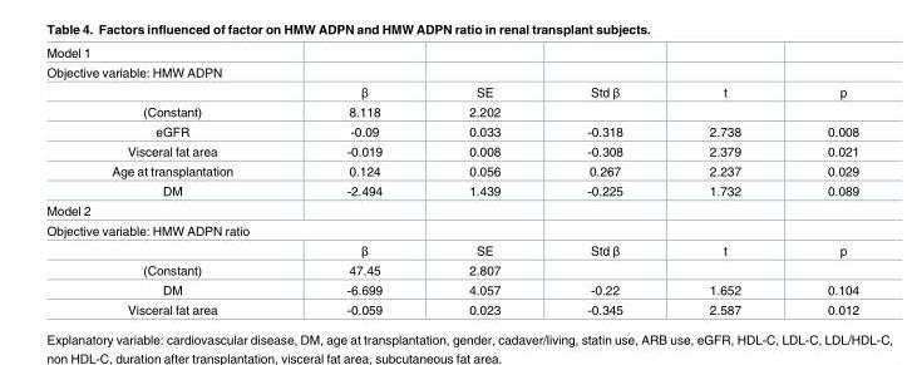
<table><tbody><tr><td colspan="6">Model 1</td></tr><tr><td colspan="6">Objective variable: HMW ADPN</td></tr><tr><td></td><td>β</td><td>SE</td><td>Std β</td><td>t</td><td>p</td></tr><tr><td>(Constant)</td><td>8.118</td><td>2.202</td><td></td><td></td><td></td></tr><tr><td>eGFR</td><td>-0.09</td><td>0.033</td><td>-0.318</td><td>2.738</td><td>0.008</td></tr><tr><td>Visceral fat area</td><td>-0.019</td><td>0.008</td><td>-0.308</td><td>2.379</td><td>0.021</td></tr><tr><td>Age at transplantation</td><td>0.124</td><td>0.056</td><td>0.267</td><td>2.237</td><td>0.029</td></tr><tr><td>DM</td><td>-2.494</td><td>1.439</td><td>-0.225</td><td>1.732</td><td>0.089</td></tr><tr><td colspan="6">Model 2</td></tr><tr><td colspan="6">Objective variable: HMW ADPN ratio</td></tr><tr><td></td><td>β</td><td>SE</td><td>Std β</td><td>t</td><td>p</td></tr><tr><td>(Constant)</td><td>47.45</td><td>2.807</td><td></td><td></td><td></td></tr><tr><td>DM</td><td>-6.699</td><td>4.057</td><td>-0.22</td><td>1.652</td><td>0.104</td></tr><tr><td>Visceral fat area</td><td>-0.059</td><td>0.023</td><td>-0.345</td><td>2.587</td><td>0.012</td></tr></tbody></table>